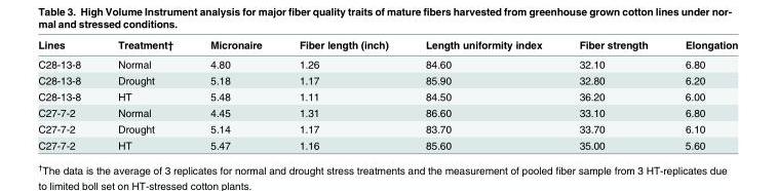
<table><thead><tr><td>Lines</td><td>Treatment†</td><td>Micronaire</td><td>Fiber length (inch)</td><td>Length uniformity index</td><td>Fiber strength</td><td>Elongation</td></tr></thead><tbody><tr><td>C28-13-8</td><td>Normal</td><td>4.80</td><td>1.26</td><td>84.60</td><td>32.10</td><td>6.80</td></tr><tr><td>C28-13-8</td><td>Drought</td><td>5.18</td><td>1.17</td><td>85.90</td><td>32.80</td><td>6.20</td></tr><tr><td>C28-13-8</td><td>HT</td><td>5.48</td><td>1.11</td><td>84.50</td><td>36.20</td><td>6.00</td></tr><tr><td>C27-7-2</td><td>Normal</td><td>4.45</td><td>1.31</td><td>86.60</td><td>33.10</td><td>6.80</td></tr><tr><td>C27-7-2</td><td>Drought</td><td>5.14</td><td>1.17</td><td>83.70</td><td>33.70</td><td>6.10</td></tr><tr><td>C27-7-2</td><td>HT</td><td>5.47</td><td>1.16</td><td>85.60</td><td>35.00</td><td>5.60</td></tr></tbody></table>